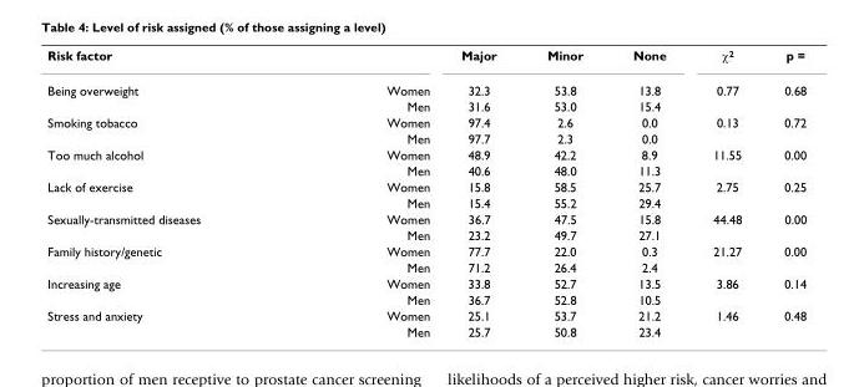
<table><tbody><tr><td>Risk factor</td><td></td><td>Major</td><td>Minor</td><td>None</td><td>χ<sup>2</sup></td><td>p =</td></tr><tr><td rowspan="2">Being overweight</td><td>Women</td><td>32.3</td><td>53.8</td><td>13.8</td><td>0.77</td><td>0.68</td></tr><tr><td>Men</td><td>31.6</td><td>53.0</td><td>15.4</td><td></td><td></td></tr><tr><td rowspan="2">Smoking tobacco</td><td>Women</td><td>97.4</td><td>2.6</td><td>0.0</td><td>0.13</td><td>0.72</td></tr><tr><td>Men</td><td>97.7</td><td>2.3</td><td>0.0</td><td></td><td></td></tr><tr><td rowspan="2">Too much alcohol</td><td>Women</td><td>48.9</td><td>42.2</td><td>8.9</td><td>11.55</td><td>0.00</td></tr><tr><td>Men</td><td>40.6</td><td>48.0</td><td>11.3</td><td></td><td></td></tr><tr><td rowspan="2">Lack of exercise</td><td>Women</td><td>15.8</td><td>58.5</td><td>25.7</td><td>2.75</td><td>0.25</td></tr><tr><td>Men</td><td>15.4</td><td>55.2</td><td>29.4</td><td></td><td></td></tr><tr><td rowspan="2">Sexually-transmitted diseases</td><td>Women</td><td>36.7</td><td>47.5</td><td>15.8</td><td>44.48</td><td>0.00</td></tr><tr><td>Men</td><td>23.2</td><td>49.7</td><td>27.1</td><td></td><td></td></tr><tr><td rowspan="2">Family history/genetic</td><td>Women</td><td>77.7</td><td>22.0</td><td>0.3</td><td>21.27</td><td>0.00</td></tr><tr><td>Men</td><td>71.2</td><td>26.4</td><td>2.4</td><td></td><td></td></tr><tr><td rowspan="2">Increasing age</td><td>Women</td><td>33.8</td><td>52.7</td><td>13.5</td><td>3.86</td><td>0.14</td></tr><tr><td>Men</td><td>36.7</td><td>52.8</td><td>10.5</td><td></td><td></td></tr><tr><td rowspan="2">Stress and anxiety</td><td>Women</td><td>25.1</td><td>53.7</td><td>21.2</td><td>1.46</td><td>0.48</td></tr><tr><td>Men</td><td>25.7</td><td>50.8</td><td>23.4</td><td></td><td></td></tr></tbody></table>